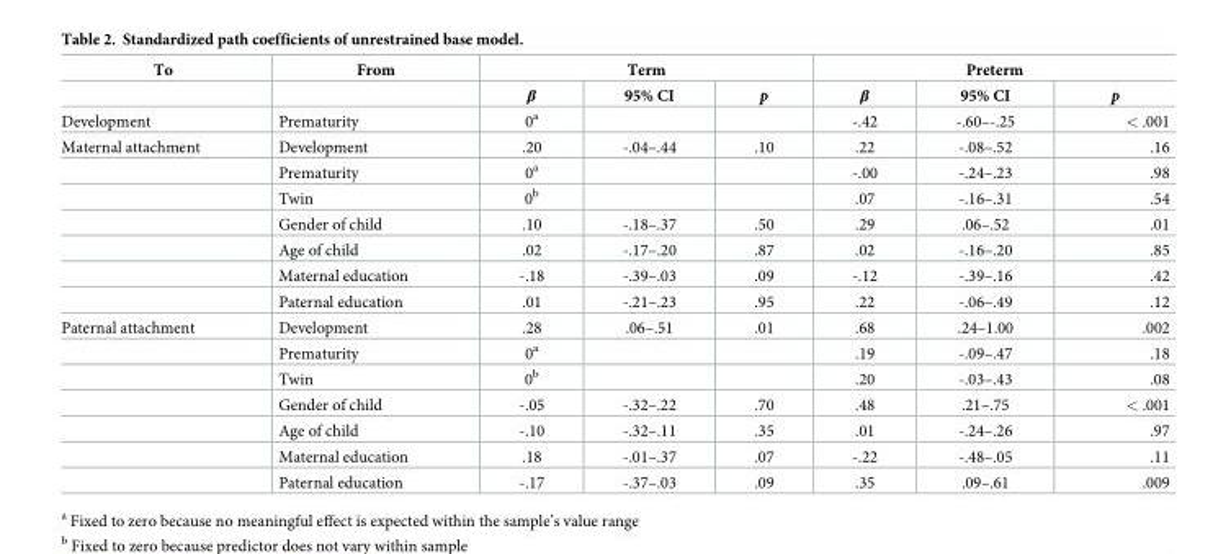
<table><thead><tr><td rowspan="2">To</td><td rowspan="2">From</td><td colspan="3">Term</td><td colspan="3">Preterm</td></tr><tr><td>β</td><td>95% CI</td><td>p</td><td>β</td><td>95% CI</td><td>p</td></tr></thead><tbody><tr><td>Development</td><td>Prematurity</td><td>0<sup>a</sup></td><td></td><td></td><td>-.42</td><td>-.60–-.25</td><td>&lt; .001</td></tr><tr><td rowspan="7">Maternal attachment</td><td>Development</td><td>.20</td><td>-.04–.44</td><td>.10</td><td>.22</td><td>-.08–.52</td><td>.16</td></tr><tr><td>Prematurity</td><td>0<sup>a</sup></td><td></td><td></td><td>-.00</td><td>-.24–.23</td><td>.98</td></tr><tr><td>Twin</td><td>0<sup>b</sup></td><td></td><td></td><td>.07</td><td>-.16–.31</td><td>.54</td></tr><tr><td>Gender of child</td><td>.10</td><td>-.18–.37</td><td>.50</td><td>.29</td><td>.06–.52</td><td>.01</td></tr><tr><td>Age of child</td><td>.02</td><td>-.17–.20</td><td>.87</td><td>.02</td><td>-.16–.20</td><td>.85</td></tr><tr><td>Maternal education</td><td>-.18</td><td>-.39–.03</td><td>.09</td><td>-.12</td><td>-.39–.16</td><td>.42</td></tr><tr><td>Paternal education</td><td>.01</td><td>-.21–.23</td><td>.95</td><td>.22</td><td>-.06–.49</td><td>.12</td></tr><tr><td rowspan="7">Paternal attachment</td><td>Development</td><td>.28</td><td>.06–.51</td><td>.01</td><td>.68</td><td>.24–1.00</td><td>.002</td></tr><tr><td>Prematurity</td><td>0<sup>a</sup></td><td></td><td></td><td>.19</td><td>-.09–.47</td><td>.18</td></tr><tr><td>Twin</td><td>0<sup>b</sup></td><td></td><td></td><td>.20</td><td>-.03–.43</td><td>.08</td></tr><tr><td>Gender of child</td><td>-.05</td><td>-.32–.22</td><td>.70</td><td>.48</td><td>.21–.75</td><td>&lt; .001</td></tr><tr><td>Age of child</td><td>-.10</td><td>-.32–.11</td><td>.35</td><td>.01</td><td>-.24–.26</td><td>.97</td></tr><tr><td>Maternal education</td><td>.18</td><td>-.01–.37</td><td>.07</td><td>-.22</td><td>-.48–.05</td><td>.11</td></tr><tr><td>Paternal education</td><td>-.17</td><td>-.37–.03</td><td>.09</td><td>.35</td><td>.09–.61</td><td>.009</td></tr></tbody></table>